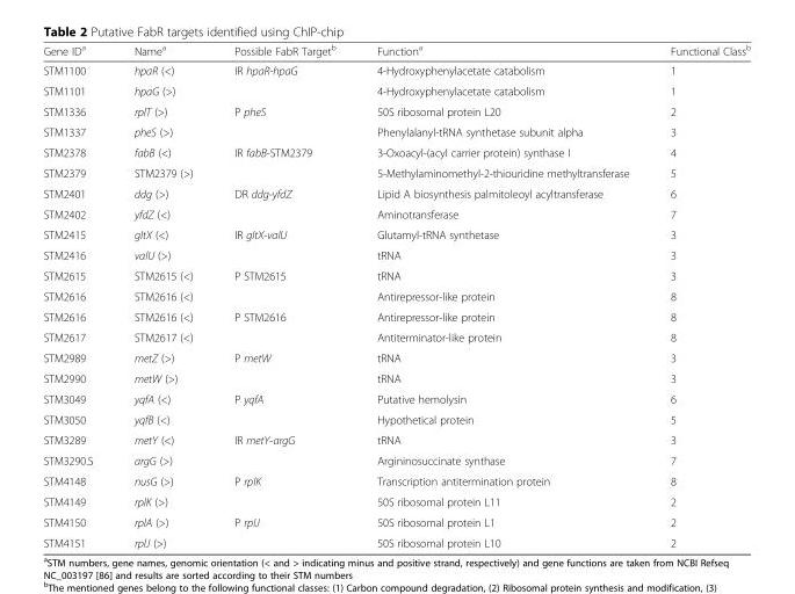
<table><thead><tr><td>Gene ID<sup>a</sup></td><td>Name<sup>a</sup></td><td>Possible FabR Target<sup>b</sup></td><td>Function<sup>a</sup></td><td>Functional Class<sup>b</sup></td></tr></thead><tbody><tr><td>STM1100</td><td>hpaR (&lt;)</td><td>IR hpaR-hpaG</td><td>4-Hydroxyphenylacetate catabolism</td><td>1</td></tr><tr><td>STM1101</td><td>hpaG (&gt;)</td><td></td><td>4-Hydroxyphenylacetate catabolism</td><td>1</td></tr><tr><td>STM1336</td><td>rplT (&gt;)</td><td>P pheS</td><td>50S ribosomal protein L20</td><td>2</td></tr><tr><td>STM1337</td><td>pheS (&gt;)</td><td></td><td>Phenylalanyl-tRNA synthetase subunit alpha</td><td>3</td></tr><tr><td>STM2378</td><td>fabB (&lt;)</td><td>IR fabB-STM2379</td><td>3-Oxoacyl-(acyl carrier protein) synthase I</td><td>4</td></tr><tr><td>STM2379</td><td>STM2379 (&gt;)</td><td></td><td>5-Methylaminomethyl-2-thiouridine methyltransferase</td><td>5</td></tr><tr><td>STM2401</td><td>ddg (&gt;)</td><td>DR ddg-yfdZ</td><td>Lipid A biosynthesis palmitoleoyl acyltransferase</td><td>6</td></tr><tr><td>STM2402</td><td>yfdZ (&lt;)</td><td></td><td>Aminotransferase</td><td>7</td></tr><tr><td>STM2415</td><td>gltX (&lt;)</td><td>IR gltX-valU</td><td>Glutamyl-tRNA synthetase</td><td>3</td></tr><tr><td>STM2416</td><td>valU (&gt;)</td><td></td><td>tRNA</td><td>3</td></tr><tr><td>STM2615</td><td>STM2615 (&lt;)</td><td>P STM2615</td><td>tRNA</td><td>3</td></tr><tr><td>STM2616</td><td>STM2616 (&lt;)</td><td></td><td>Antirepressor-like protein</td><td>8</td></tr><tr><td>STM2616</td><td>STM2616 (&lt;)</td><td>P STM2616</td><td>Antirepressor-like protein</td><td>8</td></tr><tr><td>STM2617</td><td>STM2617 (&lt;)</td><td></td><td>Antiterminator-like protein</td><td>8</td></tr><tr><td>STM2989</td><td>metZ (&gt;)</td><td>P metW</td><td>tRNA</td><td>3</td></tr><tr><td>STM2990</td><td>metW (&gt;)</td><td></td><td>tRNA</td><td>3</td></tr><tr><td>STM3049</td><td>yqfA (&lt;)</td><td>P yqfA</td><td>Putative hemolysin</td><td>6</td></tr><tr><td>STM3050</td><td>yqfB (&lt;)</td><td></td><td>Hypothetical protein</td><td>5</td></tr><tr><td>STM3289</td><td>metY (&lt;)</td><td>IR metY-argG</td><td>tRNA</td><td>3</td></tr><tr><td>STM3290.S</td><td>argG (&gt;)</td><td></td><td>Argininosuccinate synthase</td><td>7</td></tr><tr><td>STM4148</td><td>nusG (&gt;)</td><td>P rplK</td><td>Transcription antitermination protein</td><td>8</td></tr><tr><td>STM4149</td><td>rplK (&gt;)</td><td></td><td>50S ribosomal protein L11</td><td>2</td></tr><tr><td>STM4150</td><td>rplA (&gt;)</td><td>P rplJ</td><td>50S ribosomal protein L1</td><td>2</td></tr><tr><td>STM4151</td><td>rplJ (&gt;)</td><td></td><td>50S ribosomal protein L10</td><td>2</td></tr></tbody></table>